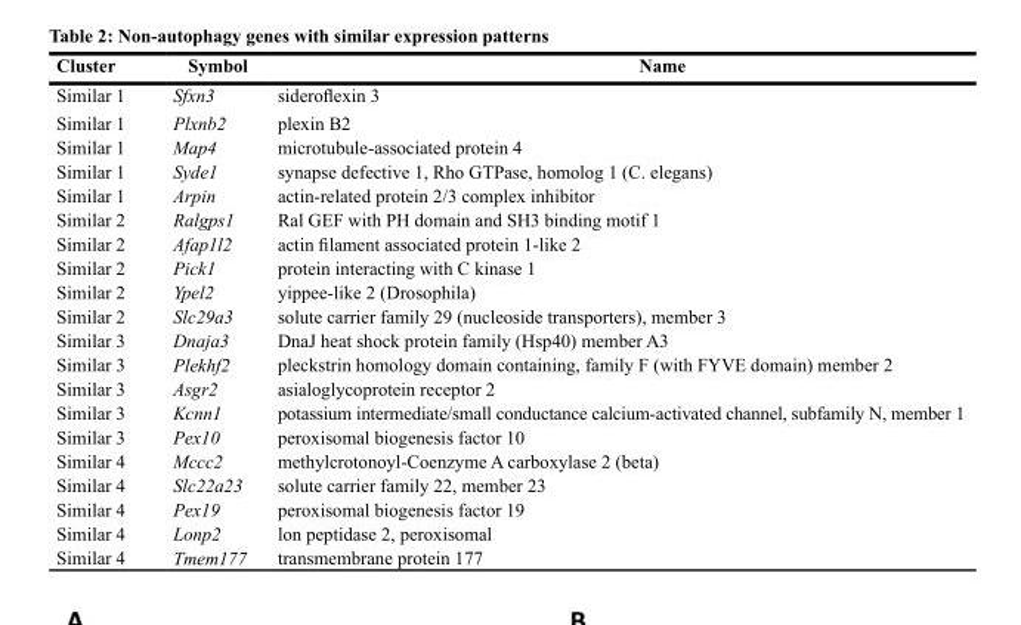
<table><thead><tr><td>Cluster</td><td>Symbol</td><td>Name</td></tr></thead><tbody><tr><td>Similar 1</td><td>Sfxn3</td><td>sideroflexin 3</td></tr><tr><td>Similar 1</td><td>Plxnb2</td><td>plexin B2</td></tr><tr><td>Similar 1</td><td>Map4</td><td>microtubule-associated protein 4</td></tr><tr><td>Similar 1</td><td>Syde1</td><td>synapse defective 1, Rho GTPase, homolog 1 (C. elegans)</td></tr><tr><td>Similar 1</td><td>Arpin</td><td>actin-related protein 2/3 complex inhibitor</td></tr><tr><td>Similar 2</td><td>Ralgps1</td><td>Ral GEF with PH domain and SH3 binding motif 1</td></tr><tr><td>Similar 2</td><td>Afap1l2</td><td>actin filament associated protein 1-like 2</td></tr><tr><td>Similar 2</td><td>Pick1</td><td>protein interacting with C kinase 1</td></tr><tr><td>Similar 2</td><td>Ypel2</td><td>yippee-like 2 (Drosophila)</td></tr><tr><td>Similar 2</td><td>Slc29a3</td><td>solute carrier family 29 (nucleoside transporters), member 3</td></tr><tr><td>Similar 3</td><td>Dnaja3</td><td>DnaJ heat shock protein family (Hsp40) member A3</td></tr><tr><td>Similar 3</td><td>Plekhf2</td><td>pleckstrin homology domain containing, family F (with FYVE domain) member 2</td></tr><tr><td>Similar 3</td><td>Asgr2</td><td>asialoglycoprotein receptor 2</td></tr><tr><td>Similar 3</td><td>Kcnn1</td><td>potassium intermediate/small conductance calcium-activated channel, subfamily N, member 1</td></tr><tr><td>Similar 3</td><td>Pex10</td><td>peroxisomal biogenesis factor 10</td></tr><tr><td>Similar 4</td><td>Mccc2</td><td>methylcrotonoyl-Coenzyme A carboxylase 2 (beta)</td></tr><tr><td>Similar 4</td><td>Slc22a23</td><td>solute carrier family 22, member 23</td></tr><tr><td>Similar 4</td><td>Pex19</td><td>peroxisomal biogenesis factor 19</td></tr><tr><td>Similar 4</td><td>Lonp2</td><td>lon peptidase 2, peroxisomal</td></tr><tr><td>Similar 4</td><td>Tmem177</td><td>transmembrane protein 177</td></tr></tbody></table>